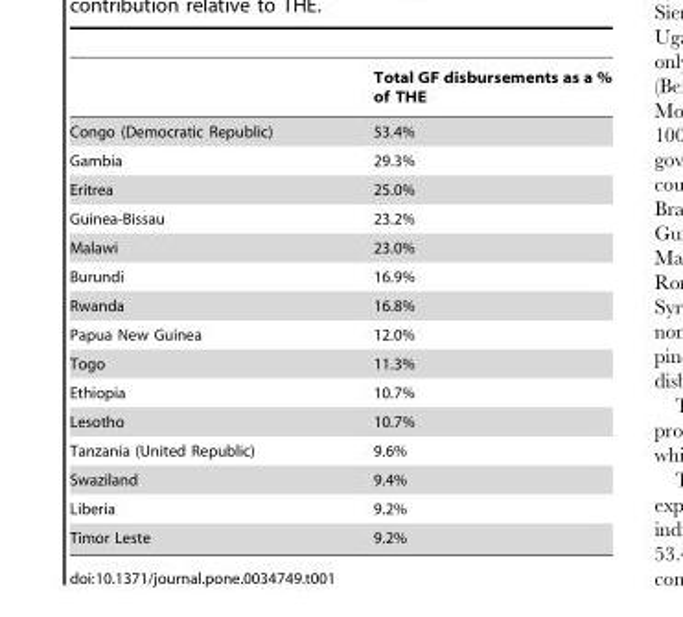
<table><thead><tr><td></td><td>Total GF disbursements as a % of THE</td></tr></thead><tbody><tr><td>Congo (Democratic Republic)</td><td>53.4%</td></tr><tr><td>Gambia</td><td>29.3%</td></tr><tr><td>Eritrea</td><td>25.0%</td></tr><tr><td>Guinea-Bissau</td><td>23.2%</td></tr><tr><td>Malawi</td><td>23.0%</td></tr><tr><td>Burundi</td><td>16.9%</td></tr><tr><td>Rwanda</td><td>16.8%</td></tr><tr><td>Papua New Guinea</td><td>12.0%</td></tr><tr><td>Togo</td><td>11.3%</td></tr><tr><td>Ethiopia</td><td>10.7%</td></tr><tr><td>Lesotho</td><td>10.7%</td></tr><tr><td>Tanzania (United Republic)</td><td>9.6%</td></tr><tr><td>Swaziland</td><td>9.4%</td></tr><tr><td>Liberia</td><td>9.2%</td></tr><tr><td>Timor Leste</td><td>9.2%</td></tr></tbody></table>